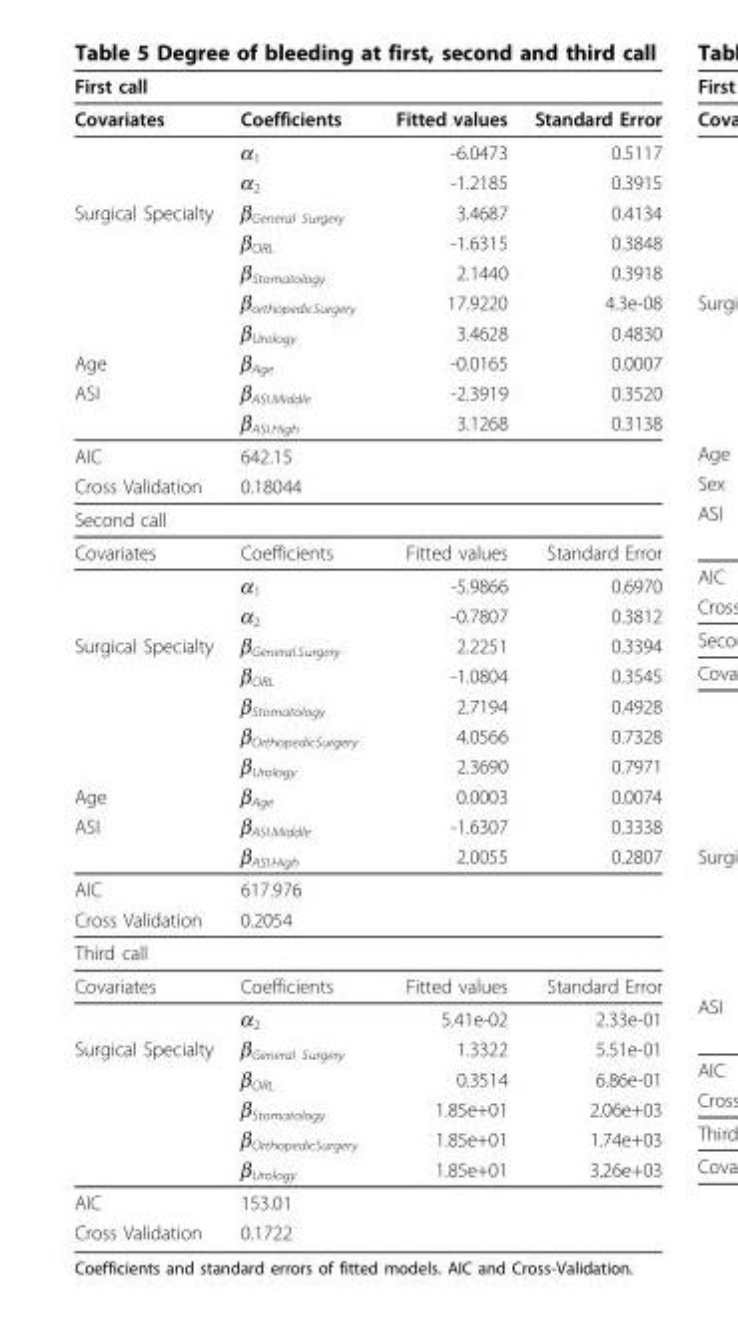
<table><thead><tr><td>First call</td><td></td><td></td><td></td></tr></thead><tbody><tr><td rowspan="3">Covariates</td><td>Coefficients</td><td>Fitted values</td><td>Standard Error</td></tr><tr><td>α<sub>1</sub></td><td>-6.0473</td><td>0.5117</td></tr><tr><td>α<sub>2</sub></td><td>-1.2185</td><td>0.3915</td></tr><tr><td rowspan="5">Surgical Specialty</td><td>β<sub>General Surgery</sub></td><td>3.4687</td><td>0.4134</td></tr><tr><td>β<sub>ORL</sub></td><td>-1.6315</td><td>0.3848</td></tr><tr><td>β<sub>Stomatology</sub></td><td>2.1440</td><td>0.3918</td></tr><tr><td>β<sub>orthopedicSurgery</sub></td><td>17.9220</td><td>4.3e-08</td></tr><tr><td>β<sub>Urology</sub></td><td>3.4628</td><td>0.4830</td></tr><tr><td>Age</td><td>β<sub>Age</sub></td><td>-0.0165</td><td>0.0007</td></tr><tr><td rowspan="2">ASI</td><td>β<sub>ASI.Middle</sub></td><td>-2.3919</td><td>0.3520</td></tr><tr><td>β<sub>ASI.High</sub></td><td>3.1268</td><td>0.3138</td></tr><tr><td>AIC</td><td>642.15</td><td></td><td></td></tr><tr><td>Cross Validation</td><td>0.18044</td><td></td><td></td></tr><tr><td colspan="4">Second call</td></tr><tr><td rowspan="3">Covariates</td><td>Coefficients</td><td>Fitted values</td><td>Standard Error</td></tr><tr><td>α<sub>1</sub></td><td>-5.9866</td><td>0.6970</td></tr><tr><td>α<sub>2</sub></td><td>-0.7807</td><td>0.3812</td></tr><tr><td rowspan="5">Surgical Specialty</td><td>β<sub>General.Surgery</sub></td><td>2.2251</td><td>0.3394</td></tr><tr><td>β<sub>ORL</sub></td><td>-1.0804</td><td>0.3545</td></tr><tr><td>β<sub>Stomatology</sub></td><td>2.7194</td><td>0.4928</td></tr><tr><td>β<sub>OrthopedicSurgery</sub></td><td>4.0566</td><td>0.7328</td></tr><tr><td>β<sub>Urology</sub></td><td>2.3690</td><td>0.7971</td></tr><tr><td>Age</td><td>β<sub>Age</sub></td><td>0.0003</td><td>0.0074</td></tr><tr><td rowspan="2">ASI</td><td>β<sub>ASI.Middle</sub></td><td>-1.6307</td><td>0.3338</td></tr><tr><td>β<sub>ASI.High</sub></td><td>2.0055</td><td>0.2807</td></tr><tr><td>AIC</td><td>617.976</td><td></td><td></td></tr><tr><td>Cross Validation</td><td>0.2054</td><td></td><td></td></tr><tr><td colspan="4">Third call</td></tr><tr><td rowspan="2">Covariates</td><td>Coefficients</td><td>Fitted values</td><td>Standard Error</td></tr><tr><td>α<sub>2</sub></td><td>5.41e-02</td><td>2.33e-01</td></tr><tr><td rowspan="5">Surgical Specialty</td><td>β<sub>General Surgery</sub></td><td>1.3322</td><td>5.51e-01</td></tr><tr><td>β<sub>ORL</sub></td><td>0.3514</td><td>6.86e-01</td></tr><tr><td>β<sub>Stomatology</sub></td><td>1.85e+01</td><td>2.06e+03</td></tr><tr><td>β<sub>OrthopedicSurgery</sub></td><td>1.85e+01</td><td>1.74e+03</td></tr><tr><td>β<sub>Urology</sub></td><td>1.85e+01</td><td>3.26e+03</td></tr><tr><td>AIC</td><td>153.01</td><td></td><td></td></tr><tr><td>Cross Validation</td><td>0.1722</td><td></td><td></td></tr></tbody></table>